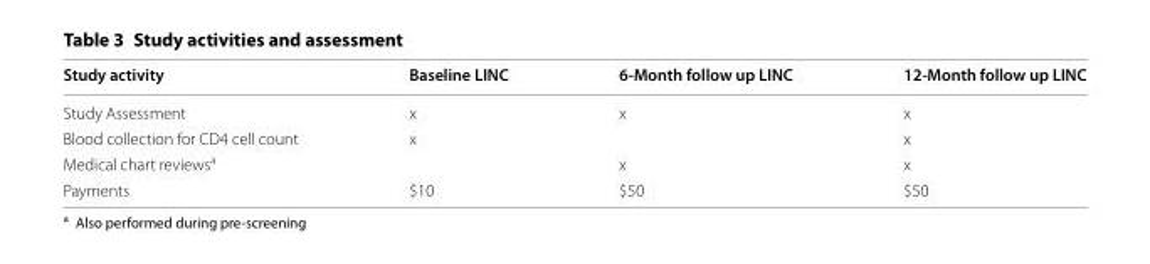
<table><thead><tr><td>Study activity</td><td>Baseline LINC</td><td>6-Month follow up LINC</td><td>12-Month follow up LINC</td></tr></thead><tbody><tr><td>Study Assessment</td><td>x</td><td>x</td><td>x</td></tr><tr><td>Blood collection for CD4 cell count</td><td>x</td><td></td><td>x</td></tr><tr><td>Medical chart reviews<sup>a</sup></td><td></td><td>x</td><td>x</td></tr><tr><td>Payments</td><td>$10</td><td>$50</td><td>$50</td></tr></tbody></table>